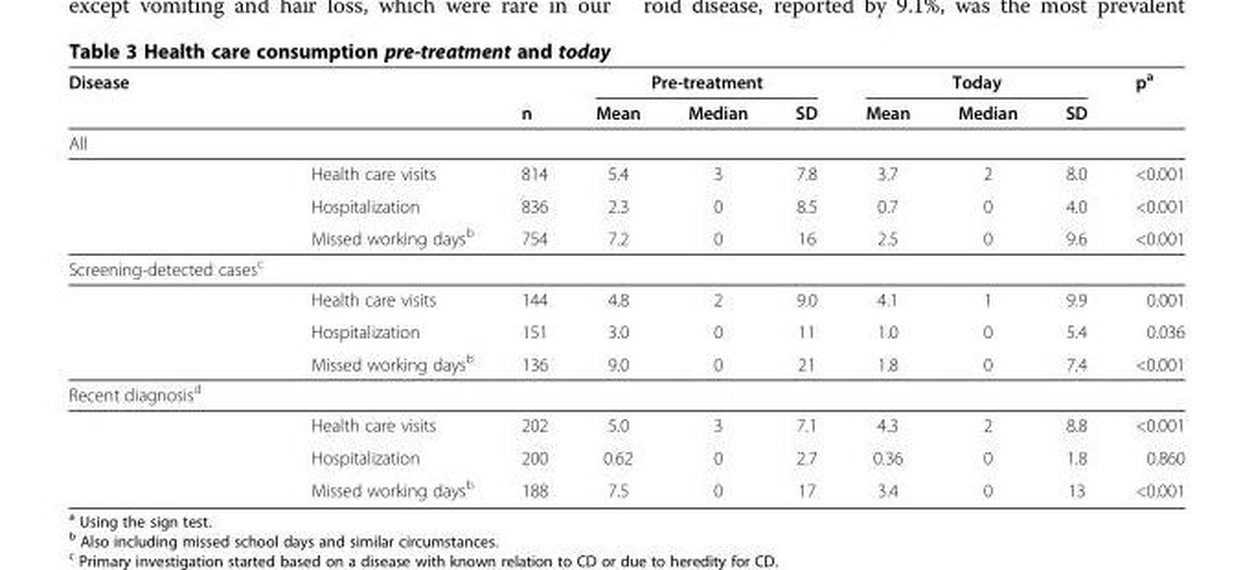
<table><thead><tr><td rowspan="3" colspan="2">Disease All</td><td rowspan="4">n 814</td><td colspan="3">Pre-treatment</td><td colspan="3">Today</td><td rowspan="4">p<sup>a</sup> &lt;0.001</td></tr><tr><td rowspan="3">Mean 5.4</td><td rowspan="3">Median 3</td><td rowspan="3">SD 7.8</td><td rowspan="3">Mean 3.7</td><td rowspan="3">Median 2</td><td rowspan="3">SD 8.0</td></tr><tr></tr><tr><td></td><td>Health care visits</td></tr></thead><tbody><tr><td></td><td>Hospitalization</td><td>836</td><td>2.3</td><td>0</td><td>8.5</td><td>0.7</td><td>0</td><td>4.0</td><td>&lt;0.001</td></tr><tr><td></td><td>Missed working days<sup>b</sup></td><td>754</td><td>7.2</td><td>0</td><td>16</td><td>2.5</td><td>0</td><td>9.6</td><td>&lt;0.001</td></tr><tr><td colspan="10">Screening-detected cases<sup>c</sup></td></tr><tr><td></td><td>Health care visits</td><td>144</td><td>4.8</td><td>2</td><td>9.0</td><td>4.1</td><td>1</td><td>9.9</td><td>0.001</td></tr><tr><td></td><td>Hospitalization</td><td>151</td><td>3.0</td><td>0</td><td>11</td><td>1.0</td><td>0</td><td>5.4</td><td>0.036</td></tr><tr><td></td><td>Missed working days<sup>b</sup></td><td>136</td><td>9.0</td><td>0</td><td>21</td><td>1.8</td><td>0</td><td>7.4</td><td>&lt;0.001</td></tr><tr><td colspan="10">Recent diagnosis<sup>d</sup></td></tr><tr><td></td><td>Health care visits</td><td>202</td><td>5.0</td><td>3</td><td>7.1</td><td>4.3</td><td>2</td><td>8.8</td><td>&lt;0.001</td></tr><tr><td></td><td>Hospitalization</td><td>200</td><td>0.62</td><td>0</td><td>2.7</td><td>0.36</td><td>0</td><td>1.8</td><td>0.860</td></tr><tr><td></td><td>Missed working days<sup>b</sup></td><td>188</td><td>7.5</td><td>0</td><td>17</td><td>3.4</td><td>0</td><td>13</td><td>&lt;0.001</td></tr></tbody></table>